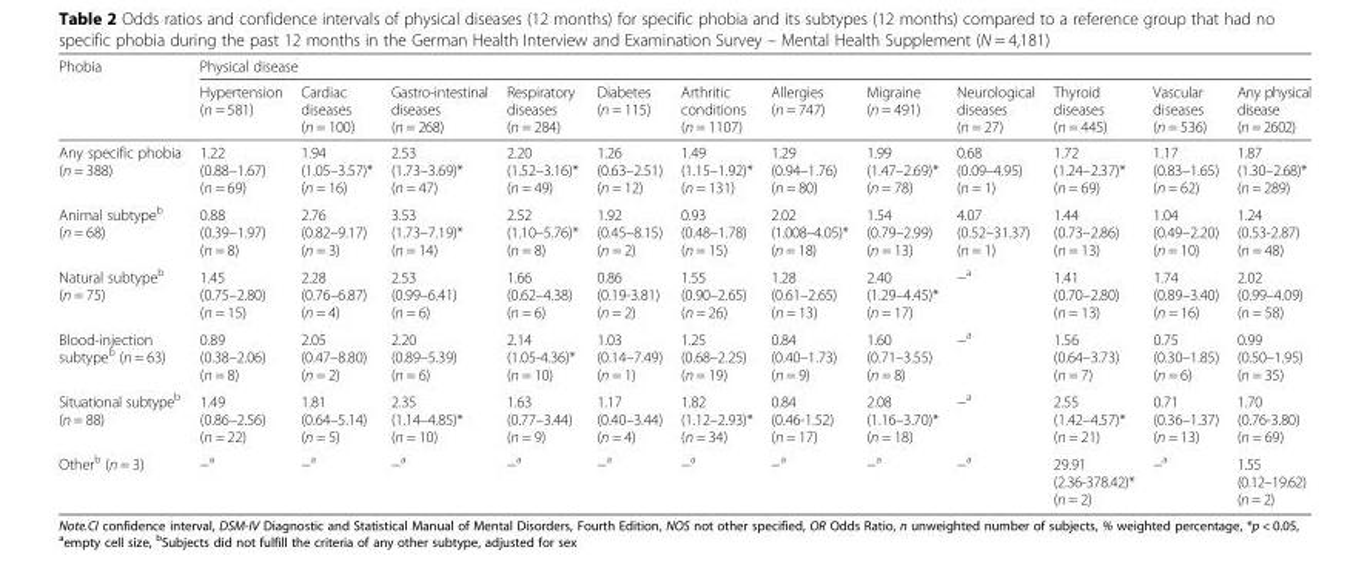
<table><thead><tr><td rowspan="2">Phobia</td><td colspan="12">Physical disease</td></tr><tr><td>Hypertension (n = 581)</td><td>Cardiac diseases (n = 100)</td><td>Gastro-intestinal diseases (n = 268)</td><td>Respiratory diseases (n = 284)</td><td>Diabetes (n = 115)</td><td>Arthritic conditions (n = 1107)</td><td>Allergies (n = 747)</td><td>Migraine (n = 491)</td><td>Neurological diseases (n = 27)</td><td>Thyroid diseases (n = 445)</td><td>Vascular diseases (n = 536)</td><td>Any physical disease (n = 2602)</td></tr></thead><tbody><tr><td>Any specific phobia (n = 388)</td><td>1.22 (0.88–1.67) (n = 69)</td><td>1.94 (1.05–3.57)* (n = 16)</td><td>2.53 (1.73–3.69)* (n = 47)</td><td>2.20 (1.52–3.16)* (n = 49)</td><td>1.26 (0.63–2.51) (n = 12)</td><td>1.49 (1.15–1.92)* (n = 131)</td><td>1.29 (0.94–1.76) (n = 80)</td><td>1.99 (1.47–2.69)* (n = 78)</td><td>0.68 (0.09–4.95) (n = 1)</td><td>1.72 (1.24–2.37)* (n = 69)</td><td>1.17 (0.83–1.65) (n = 62)</td><td>1.87 (1.30–2.68)* (n = 289)</td></tr><tr><td>Animal subtype<sup>b</sup> (n = 68)</td><td>0.88 (0.39–1.97) (n = 8)</td><td>2.76 (0.82–9.17) (n = 3)</td><td>3.53 (1.73–7.19)* (n = 14)</td><td>2.52 (1.10–5.76)* (n = 8)</td><td>1.92 (0.45–8.15) (n = 2)</td><td>0.93 (0.48–1.78) (n = 15)</td><td>2.02 (1.008–4.05)* (n = 18)</td><td>1.54 (0.79–2.99) (n = 13)</td><td>4.07 (0.52–31.37) (n = 1)</td><td>1.44 (0.73–2.86) (n = 13)</td><td>1.04 (0.49–2.20) (n = 10)</td><td>1.24 (0.53-2.87) (n = 48)</td></tr><tr><td>Natural subtype<sup>b</sup> (n = 75)</td><td>1.45 (0.75–2.80) (n = 15)</td><td>2.28 (0.76–6.87) (n = 4)</td><td>2.53 (0.99–6.41) (n = 6)</td><td>1.66 (0.62–4.38) (n = 6)</td><td>0.86 (0.19-3.81) (n = 2)</td><td>1.55 (0.90–2.65) (n = 26)</td><td>1.28 (0.61–2.65) (n = 13)</td><td>2.40 (1.29–4.45)* (n = 17)</td><td>−<sup>a</sup></td><td>1.41 (0.70–2.80) (n = 13)</td><td>1.74 (0.89–3.40) (n = 16)</td><td>2.02 (0.99–4.09) (n = 58)</td></tr><tr><td>Blood-injection subtype<sup>b</sup> (n = 63)</td><td>0.89 (0.38–2.06) (n = 8)</td><td>2.05 (0.47–8.80) (n = 2)</td><td>2.20 (0.89–5.39) (n = 6)</td><td>2.14 (1.05-4.36)* (n = 10)</td><td>1.03 (0.14–7.49) (n = 1)</td><td>1.25 (0.68–2.25) (n = 19)</td><td>0.84 (0.40–1.73) (n = 9)</td><td>1.60 (0.71–3.55) (n = 8)</td><td>−<sup>a</sup></td><td>1.56 (0.64–3.73) (n = 7)</td><td>0.75 (0.30–1.85) (n = 6)</td><td>0.99 (0.50–1.95) (n = 35)</td></tr><tr><td>Situational subtype<sup>b</sup> (n = 88)</td><td>1.49 (0.86–2.56) (n = 22)</td><td>1.81 (0.64–5.14) (n = 5)</td><td>2.35 (1.14–4.85)* (n = 10)</td><td>1.63 (0.77–3.44) (n = 9)</td><td>1.17 (0.40–3.44) (n = 4)</td><td>1.82 (1.12–2.93)* (n = 34)</td><td>0.84 (0.46-1.52) (n = 17)</td><td>2.08 (1.16–3.70)* (n = 18)</td><td>−<sup>a</sup></td><td>2.55 (1.42–4.57)* (n = 21)</td><td>0.71 (0.36–1.37) (n = 13)</td><td>1.70 (0.76-3.80) (n = 69)</td></tr><tr><td>Other<sup>b</sup> (n = 3)</td><td>−<sup>a</sup></td><td>−<sup>a</sup></td><td>−<sup>a</sup></td><td>−<sup>a</sup></td><td>−<sup>a</sup></td><td>−<sup>a</sup></td><td>−<sup>a</sup></td><td>−<sup>a</sup></td><td>−<sup>a</sup></td><td>29.91 (2.36-378.42)* (n = 2)</td><td>−<sup>a</sup></td><td>1.55 (0.12–19.62) (n = 2)</td></tr></tbody></table>